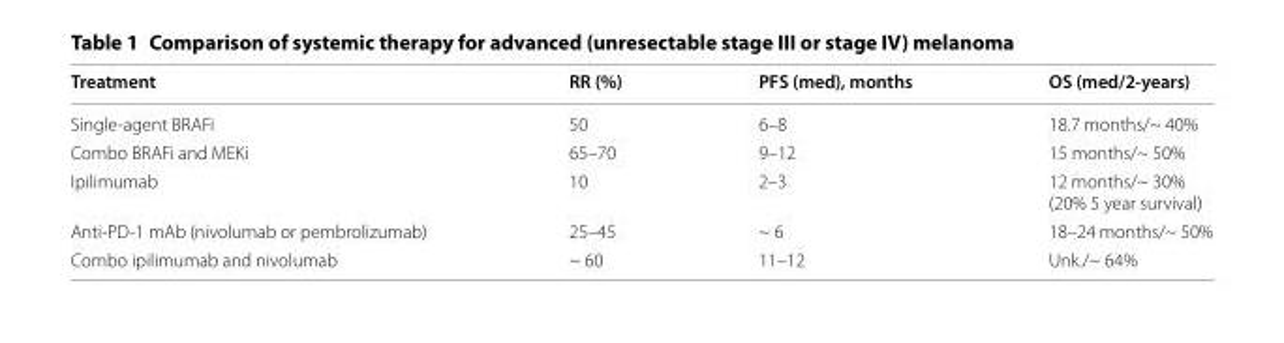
<table><thead><tr><td>Treatment</td><td>RR (%)</td><td>PFS (med), months</td><td>OS (med/2‑years)</td></tr></thead><tbody><tr><td>Single-agent BRAFi</td><td>50</td><td>6–8</td><td>18.7 months/~ 40%</td></tr><tr><td>Combo BRAFi and MEKi</td><td>65–70</td><td>9–12</td><td>15 months/~ 50%</td></tr><tr><td>Ipilimumab</td><td>10</td><td>2–3</td><td>12 months/~ 30% (20% 5 year survival)</td></tr><tr><td>Anti-PD-1 mAb (nivolumab or pembrolizumab)</td><td>25–45</td><td>~ 6</td><td>18–24 months/~ 50%</td></tr><tr><td>Combo ipilimumab and nivolumab</td><td>~ 60</td><td>11–12</td><td>Unk./~ 64%</td></tr></tbody></table>